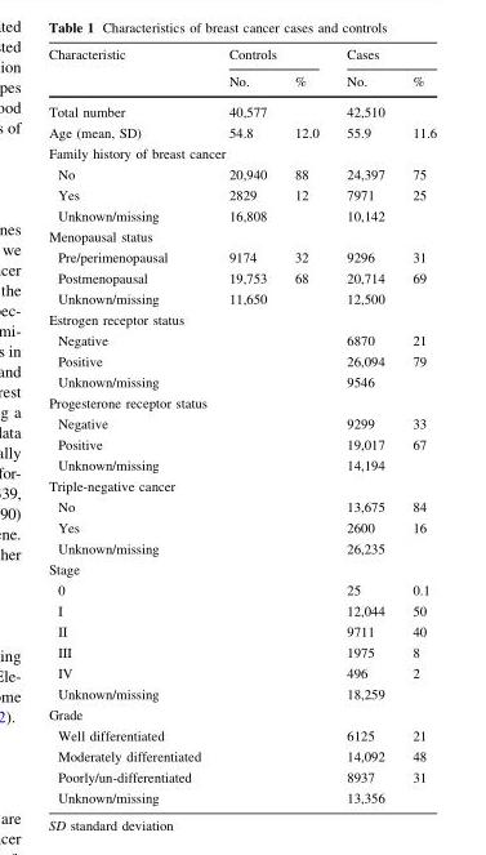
<table><thead><tr><td rowspan="2">Characteristic</td><td colspan="2">Controls</td><td colspan="2">Cases</td></tr><tr><td>No.</td><td>%</td><td>No.</td><td>%</td></tr></thead><tbody><tr><td>Total number</td><td>40,577</td><td></td><td>42,510</td><td></td></tr><tr><td>Age (mean, SD)</td><td>54.8</td><td>12.0</td><td>55.9</td><td>11.6</td></tr><tr><td colspan="5">Family history of breast cancer</td></tr><tr><td>No</td><td>20,940</td><td>88</td><td>24,397</td><td>75</td></tr><tr><td>Yes</td><td>2829</td><td>12</td><td>7971</td><td>25</td></tr><tr><td>Unknown/missing</td><td>16,808</td><td></td><td>10,142</td><td></td></tr><tr><td colspan="5">Menopausal status</td></tr><tr><td>Pre/perimenopausal</td><td>9174</td><td>32</td><td>9296</td><td>31</td></tr><tr><td>Postmenopausal</td><td>19,753</td><td>68</td><td>20,714</td><td>69</td></tr><tr><td>Unknown/missing</td><td>11,650</td><td></td><td>12,500</td><td></td></tr><tr><td colspan="5">Estrogen receptor status</td></tr><tr><td>Negative</td><td></td><td></td><td>6870</td><td>21</td></tr><tr><td>Positive</td><td></td><td></td><td>26,094</td><td>79</td></tr><tr><td>Unknown/missing</td><td></td><td></td><td>9546</td><td></td></tr><tr><td colspan="5">Progesterone receptor status</td></tr><tr><td>Negative</td><td></td><td></td><td>9299</td><td>33</td></tr><tr><td>Positive</td><td></td><td></td><td>19,017</td><td>67</td></tr><tr><td>Unknown/missing</td><td></td><td></td><td>14,194</td><td></td></tr><tr><td colspan="5">Triple-negative cancer</td></tr><tr><td>No</td><td></td><td></td><td>13,675</td><td>84</td></tr><tr><td>Yes</td><td></td><td></td><td>2600</td><td>16</td></tr><tr><td>Unknown/missing</td><td></td><td></td><td>26,235</td><td></td></tr><tr><td colspan="5">Stage</td></tr><tr><td>0</td><td></td><td></td><td>25</td><td>0.1</td></tr><tr><td>I</td><td></td><td></td><td>12,044</td><td>50</td></tr><tr><td>II</td><td></td><td></td><td>9711</td><td>40</td></tr><tr><td>III</td><td></td><td></td><td>1975</td><td>8</td></tr><tr><td>IV</td><td></td><td></td><td>496</td><td>2</td></tr><tr><td>Unknown/missing</td><td></td><td></td><td>18,259</td><td></td></tr><tr><td colspan="5">Grade</td></tr><tr><td>Well differentiated</td><td></td><td></td><td>6125</td><td>21</td></tr><tr><td>Moderately differentiated</td><td></td><td></td><td>14,092</td><td>48</td></tr><tr><td>Poorly/un-differentiated</td><td></td><td></td><td>8937</td><td>31</td></tr><tr><td>Unknown/missing</td><td></td><td></td><td>13,356</td><td></td></tr></tbody></table>